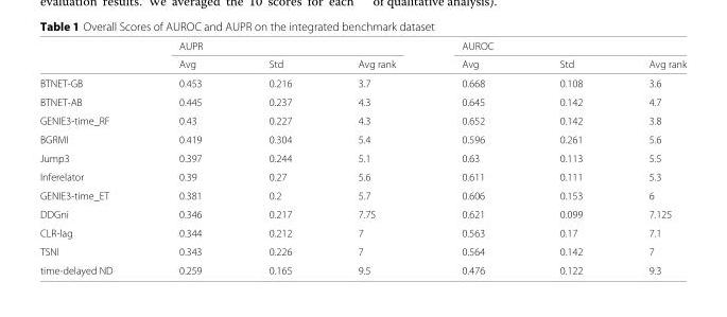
<table><thead><tr><td rowspan="2"></td><td rowspan="2">AUPR Avg</td><td rowspan="2">Std</td><td rowspan="2">Avg rank</td><td rowspan="2">AUROC Avg</td><td rowspan="2">Std</td><td rowspan="2">Avg rank</td></tr><tr></tr></thead><tbody><tr><td>BTNET-GB</td><td>0.453</td><td>0.216</td><td>3.7</td><td>0.668</td><td>0.108</td><td>3.6</td></tr><tr><td>BTNET-AB</td><td>0.445</td><td>0.237</td><td>4.3</td><td>0.645</td><td>0.142</td><td>4.7</td></tr><tr><td>GENIE3-time_RF</td><td>0.43</td><td>0.227</td><td>4.3</td><td>0.652</td><td>0.142</td><td>3.8</td></tr><tr><td>BGRMI</td><td>0.419</td><td>0.304</td><td>5.4</td><td>0.596</td><td>0.261</td><td>5.6</td></tr><tr><td>Jump3</td><td>0.397</td><td>0.244</td><td>5.1</td><td>0.63</td><td>0.113</td><td>5.5</td></tr><tr><td>Inferelator</td><td>0.39</td><td>0.27</td><td>5.6</td><td>0.611</td><td>0.111</td><td>5.3</td></tr><tr><td>GENIE3-time_ET</td><td>0.381</td><td>0.2</td><td>5.7</td><td>0.606</td><td>0.153</td><td>6</td></tr><tr><td>DDGni</td><td>0.346</td><td>0.217</td><td>7.75</td><td>0.621</td><td>0.099</td><td>7.125</td></tr><tr><td>CLR-lag</td><td>0.344</td><td>0.212</td><td>7</td><td>0.563</td><td>0.17</td><td>7.1</td></tr><tr><td>TSNI</td><td>0.343</td><td>0.226</td><td>7</td><td>0.564</td><td>0.142</td><td>7</td></tr><tr><td>time-delayed ND</td><td>0.259</td><td>0.165</td><td>9.5</td><td>0.476</td><td>0.122</td><td>9.3</td></tr></tbody></table>